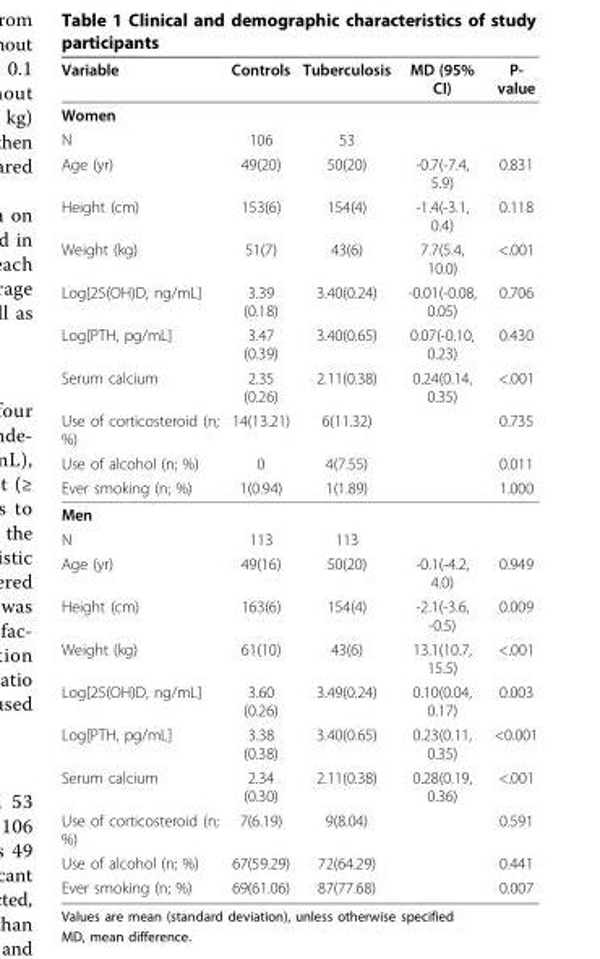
<table><thead><tr><td>Variable</td><td>Controls</td><td>Tuberculosis</td><td>MD (95% CI)</td><td>P- value</td></tr></thead><tbody><tr><td colspan="5">Women</td></tr><tr><td>N</td><td>106</td><td>53</td><td></td><td></td></tr><tr><td>Age (yr)</td><td>49(20)</td><td>50(20)</td><td>-0.7(-7.4, 5.9)</td><td>0.831</td></tr><tr><td>Height (cm)</td><td>153(6)</td><td>154(4)</td><td>-1.4(-3.1, 0.4)</td><td>0.118</td></tr><tr><td>Weight (kg)</td><td>51(7)</td><td>43(6)</td><td>7.7(5.4, 10.0)</td><td>&lt;.001</td></tr><tr><td>Log[25(OH)D, ng/mL]</td><td>3.39 (0.18)</td><td>3.40(0.24)</td><td>-0.01(-0.08, 0.05)</td><td>0.706</td></tr><tr><td>Log[PTH, pg/mL]</td><td>3.47 (0.39)</td><td>3.40(0.65)</td><td>0.07(-0.10, 0.23)</td><td>0.430</td></tr><tr><td>Serum calcium</td><td>2.35 (0.26)</td><td>2.11(0.38)</td><td>0.24(0.14, 0.35)</td><td>&lt;.001</td></tr><tr><td>Use of corticosteroid (n; %)</td><td>14(13.21)</td><td>6(11.32)</td><td></td><td>0.735</td></tr><tr><td>Use of alcohol (n; %)</td><td>0</td><td>4(7.55)</td><td></td><td>0.011</td></tr><tr><td>Ever smoking (n; %)</td><td>1(0.94)</td><td>1(1.89)</td><td></td><td>1.000</td></tr><tr><td colspan="5">Men</td></tr><tr><td>N</td><td>113</td><td>113</td><td></td><td></td></tr><tr><td>Age (yr)</td><td>49(16)</td><td>50(20)</td><td>-0.1(-4.2, 4.0)</td><td>0.949</td></tr><tr><td>Height (cm)</td><td>163(6)</td><td>154(4)</td><td>-2.1(-3.6, -0.5)</td><td>0.009</td></tr><tr><td>Weight (kg)</td><td>61(10)</td><td>43(6)</td><td>13.1(10.7, 15.5)</td><td>&lt;.001</td></tr><tr><td>Log[25(OH)D, ng/mL]</td><td>3.60 (0.26)</td><td>3.49(0.24)</td><td>0.10(0.04, 0.17)</td><td>0.003</td></tr><tr><td>Log[PTH, pg/mL]</td><td>3.38 (0.38)</td><td>3.40(0.65)</td><td>0.23(0.11, 0.35)</td><td>&lt;0.001</td></tr><tr><td>Serum calcium</td><td>2.34 (0.30)</td><td>2.11(0.38)</td><td>0.28(0.19, 0.36)</td><td>&lt;.001</td></tr><tr><td>Use of corticosteroid (n; %)</td><td>7(6.19)</td><td>9(8.04)</td><td></td><td>0.591</td></tr><tr><td>Use of alcohol (n; %)</td><td>67(59.29)</td><td>72(64.29)</td><td></td><td>0.441</td></tr><tr><td>Ever smoking (n; %)</td><td>69(61.06)</td><td>87(77.68)</td><td></td><td>0.007</td></tr></tbody></table>